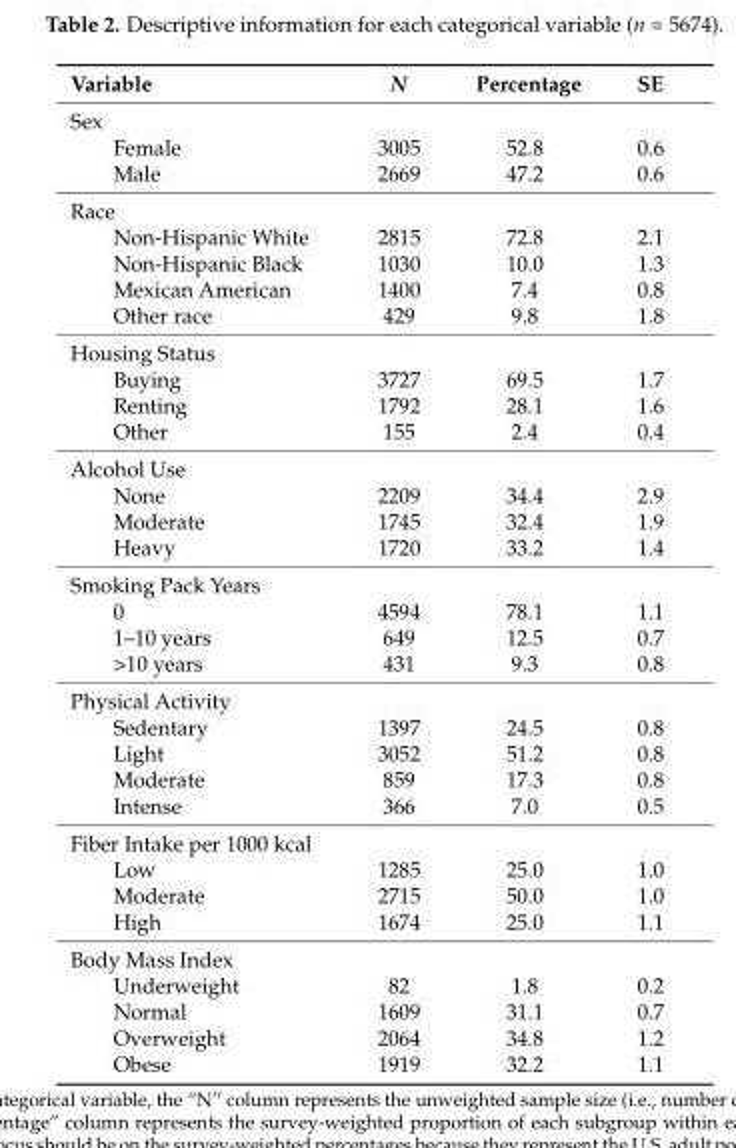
<table><thead><tr><td>Variable</td><td>N</td><td>Percentage</td><td>SE</td></tr></thead><tbody><tr><td colspan="4">Sex</td></tr><tr><td>Female</td><td>3005</td><td>52.8</td><td>0.6</td></tr><tr><td>Male</td><td>2669</td><td>47.2</td><td>0.6</td></tr><tr><td colspan="4">Race</td></tr><tr><td>Non-Hispanic White</td><td>2815</td><td>72.8</td><td>2.1</td></tr><tr><td>Non-Hispanic Black</td><td>1030</td><td>10.0</td><td>1.3</td></tr><tr><td>Mexican American</td><td>1400</td><td>7.4</td><td>0.8</td></tr><tr><td>Other race</td><td>429</td><td>9.8</td><td>1.8</td></tr><tr><td colspan="4">Housing Status</td></tr><tr><td>Buying</td><td>3727</td><td>69.5</td><td>1.7</td></tr><tr><td>Renting</td><td>1792</td><td>28.1</td><td>1.6</td></tr><tr><td>Other</td><td>155</td><td>2.4</td><td>0.4</td></tr><tr><td colspan="4">Alcohol Use</td></tr><tr><td>None</td><td>2209</td><td>34.4</td><td>2.9</td></tr><tr><td>Moderate</td><td>1745</td><td>32.4</td><td>1.9</td></tr><tr><td>Heavy</td><td>1720</td><td>33.2</td><td>1.4</td></tr><tr><td colspan="4">Smoking Pack Years</td></tr><tr><td>0</td><td>4594</td><td>78.1</td><td>1.1</td></tr><tr><td>1–10 years</td><td>649</td><td>12.5</td><td>0.7</td></tr><tr><td>&gt;10 years</td><td>431</td><td>9.3</td><td>0.8</td></tr><tr><td colspan="4">Physical Activity</td></tr><tr><td>Sedentary</td><td>1397</td><td>24.5</td><td>0.8</td></tr><tr><td>Light</td><td>3052</td><td>51.2</td><td>0.8</td></tr><tr><td>Moderate</td><td>859</td><td>17.3</td><td>0.8</td></tr><tr><td>Intense</td><td>366</td><td>7.0</td><td>0.5</td></tr><tr><td colspan="4">Fiber Intake per 1000 kcal</td></tr><tr><td>Low</td><td>1285</td><td>25.0</td><td>1.0</td></tr><tr><td>Moderate</td><td>2715</td><td>50.0</td><td>1.0</td></tr><tr><td>High</td><td>1674</td><td>25.0</td><td>1.1</td></tr><tr><td colspan="4">Body Mass Index</td></tr><tr><td>Underweight</td><td>82</td><td>1.8</td><td>0.2</td></tr><tr><td>Normal</td><td>1609</td><td>31.1</td><td>0.7</td></tr><tr><td>Overweight</td><td>2064</td><td>34.8</td><td>1.2</td></tr><tr><td>Obese</td><td>1919</td><td>32.2</td><td>1.1</td></tr></tbody></table>